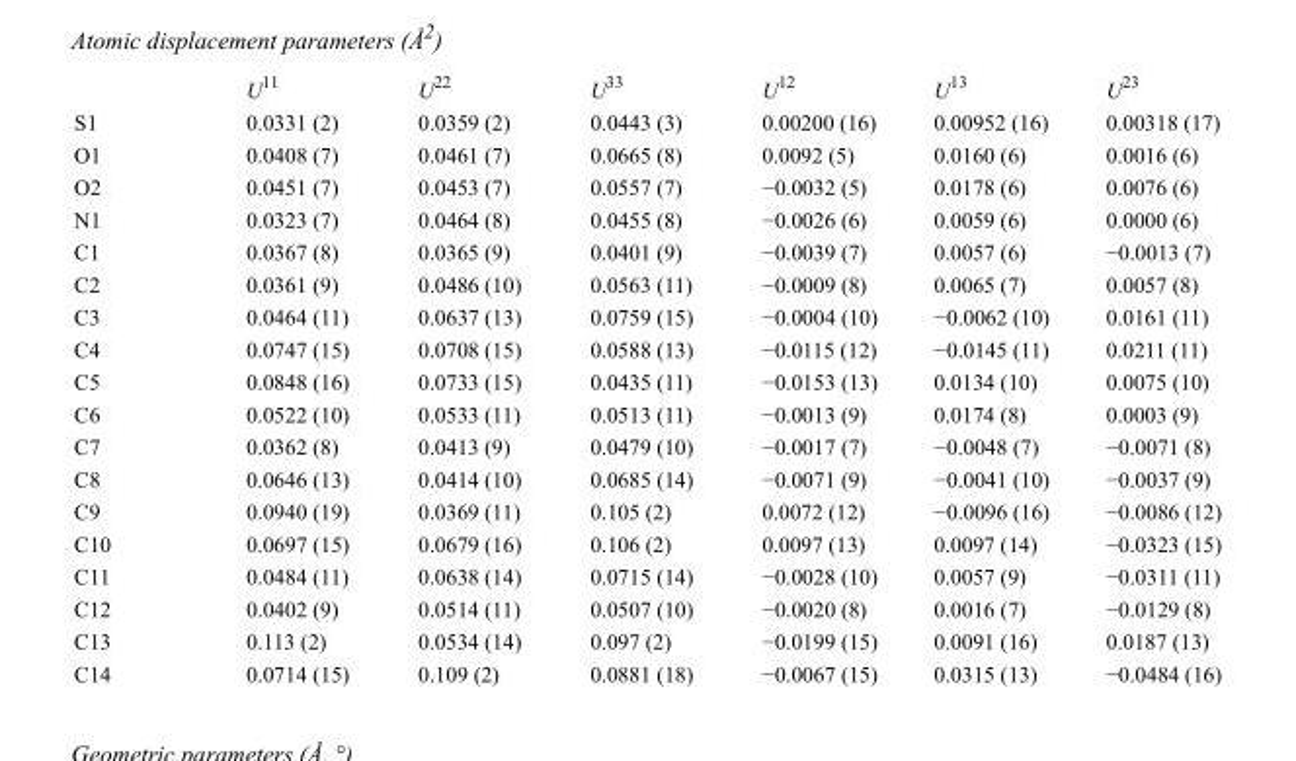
<table><thead><tr><td></td><td>U<sup>11</sup></td><td>U<sup>22</sup></td><td>U<sup>33</sup></td><td>U<sup>12</sup></td><td>U<sup>13</sup></td><td>U<sup>23</sup></td></tr></thead><tbody><tr><td>S1</td><td>0.0331 (2)</td><td>0.0359 (2)</td><td>0.0443 (3)</td><td>0.00200 (16)</td><td>0.00952 (16)</td><td>0.00318 (17)</td></tr><tr><td>O1</td><td>0.0408 (7)</td><td>0.0461 (7)</td><td>0.0665 (8)</td><td>0.0092 (5)</td><td>0.0160 (6)</td><td>0.0016 (6)</td></tr><tr><td>O2</td><td>0.0451 (7)</td><td>0.0453 (7)</td><td>0.0557 (7)</td><td>−0.0032 (5)</td><td>0.0178 (6)</td><td>0.0076 (6)</td></tr><tr><td>N1</td><td>0.0323 (7)</td><td>0.0464 (8)</td><td>0.0455 (8)</td><td>−0.0026 (6)</td><td>0.0059 (6)</td><td>0.0000 (6)</td></tr><tr><td>C1</td><td>0.0367 (8)</td><td>0.0365 (9)</td><td>0.0401 (9)</td><td>−0.0039 (7)</td><td>0.0057 (6)</td><td>−0.0013 (7)</td></tr><tr><td>C2</td><td>0.0361 (9)</td><td>0.0486 (10)</td><td>0.0563 (11)</td><td>−0.0009 (8)</td><td>0.0065 (7)</td><td>0.0057 (8)</td></tr><tr><td>C3</td><td>0.0464 (11)</td><td>0.0637 (13)</td><td>0.0759 (15)</td><td>−0.0004 (10)</td><td>−0.0062 (10)</td><td>0.0161 (11)</td></tr><tr><td>C4</td><td>0.0747 (15)</td><td>0.0708 (15)</td><td>0.0588 (13)</td><td>−0.0115 (12)</td><td>−0.0145 (11)</td><td>0.0211 (11)</td></tr><tr><td>C5</td><td>0.0848 (16)</td><td>0.0733 (15)</td><td>0.0435 (11)</td><td>−0.0153 (13)</td><td>0.0134 (10)</td><td>0.0075 (10)</td></tr><tr><td>C6</td><td>0.0522 (10)</td><td>0.0533 (11)</td><td>0.0513 (11)</td><td>−0.0013 (9)</td><td>0.0174 (8)</td><td>0.0003 (9)</td></tr><tr><td>C7</td><td>0.0362 (8)</td><td>0.0413 (9)</td><td>0.0479 (10)</td><td>−0.0017 (7)</td><td>−0.0048 (7)</td><td>−0.0071 (8)</td></tr><tr><td>C8</td><td>0.0646 (13)</td><td>0.0414 (10)</td><td>0.0685 (14)</td><td>−0.0071 (9)</td><td>−0.0041 (10)</td><td>−0.0037 (9)</td></tr><tr><td>C9</td><td>0.0940 (19)</td><td>0.0369 (11)</td><td>0.105 (2)</td><td>0.0072 (12)</td><td>−0.0096 (16)</td><td>−0.0086 (12)</td></tr><tr><td>C10</td><td>0.0697 (15)</td><td>0.0679 (16)</td><td>0.106 (2)</td><td>0.0097 (13)</td><td>0.0097 (14)</td><td>−0.0323 (15)</td></tr><tr><td>C11</td><td>0.0484 (11)</td><td>0.0638 (14)</td><td>0.0715 (14)</td><td>−0.0028 (10)</td><td>0.0057 (9)</td><td>−0.0311 (11)</td></tr><tr><td>C12</td><td>0.0402 (9)</td><td>0.0514 (11)</td><td>0.0507 (10)</td><td>−0.0020 (8)</td><td>0.0016 (7)</td><td>−0.0129 (8)</td></tr><tr><td>C13</td><td>0.113 (2)</td><td>0.0534 (14)</td><td>0.097 (2)</td><td>−0.0199 (15)</td><td>0.0091 (16)</td><td>0.0187 (13)</td></tr><tr><td>C14</td><td>0.0714 (15)</td><td>0.109 (2)</td><td>0.0881 (18)</td><td>−0.0067 (15)</td><td>0.0315 (13)</td><td>−0.0484 (16)</td></tr></tbody></table>